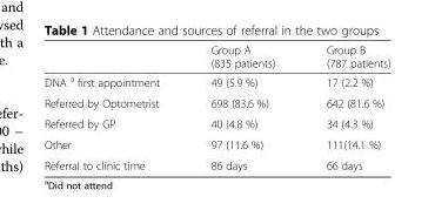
<table><thead><tr><td></td><td>Group A (835 patients)</td><td>Group B (787 patients)</td></tr></thead><tbody><tr><td>DNA <sup>a</sup> first appointment</td><td>49 (5.9 %)</td><td>17 (2.2 %)</td></tr><tr><td>Referred by Optometrist</td><td>698 (83.6 %)</td><td>642 (81.6 %)</td></tr><tr><td>Referred by GP</td><td>40 (4.8 %)</td><td>34 (4.3 %)</td></tr><tr><td>Other</td><td>97 (11.6 %)</td><td>111(14.1 %)</td></tr><tr><td>Referral to clinic time</td><td>86 days</td><td>66 days</td></tr></tbody></table>